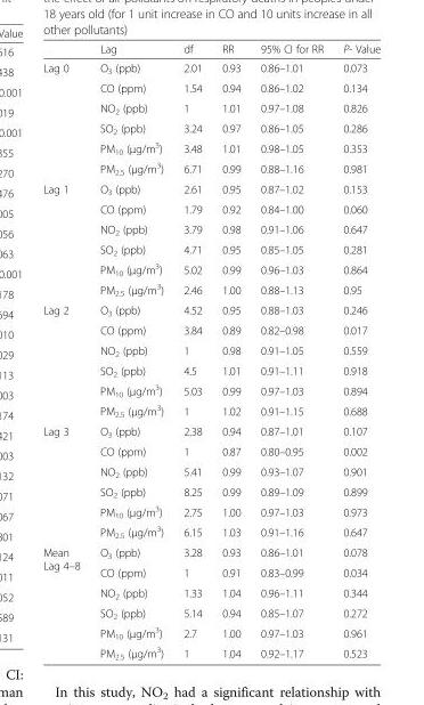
<table><thead><tr><td></td><td>Lag</td><td>df</td><td>RR</td><td>95% CI for RR</td><td>P- Value</td></tr></thead><tbody><tr><td rowspan="6">Lag 0</td><td>O<sub>3</sub> (ppb)</td><td>2.01</td><td>0.93</td><td>0.86–1.01</td><td>0.073</td></tr><tr><td>CO (ppm)</td><td>1.54</td><td>0.94</td><td>0.86–1.02</td><td>0.134</td></tr><tr><td>NO<sub>2</sub> (ppb)</td><td>1</td><td>1.01</td><td>0.97–1.08</td><td>0.826</td></tr><tr><td>SO<sub>2</sub> (ppb)</td><td>3.24</td><td>0.97</td><td>0.86–1.05</td><td>0.286</td></tr><tr><td>PM<sub>10</sub> (μg/m<sup>3</sup>)</td><td>3.48</td><td>1.01</td><td>0.98–1.05</td><td>0.353</td></tr><tr><td>PM<sub>2.5</sub> (μg/m<sup>3</sup>)</td><td>6.71</td><td>0.99</td><td>0.88–1.16</td><td>0.981</td></tr><tr><td rowspan="6">Lag 1</td><td>O<sub>3</sub> (ppb)</td><td>2.61</td><td>0.95</td><td>0.87–1.02</td><td>0.153</td></tr><tr><td>CO (ppm)</td><td>1.79</td><td>0.92</td><td>0.84–1.00</td><td>0.060</td></tr><tr><td>NO<sub>2</sub> (ppb)</td><td>3.79</td><td>0.98</td><td>0.91–1.06</td><td>0.647</td></tr><tr><td>SO<sub>2</sub> (ppb)</td><td>4.71</td><td>0.95</td><td>0.85–1.05</td><td>0.281</td></tr><tr><td>PM<sub>10</sub> (μg/m<sup>3</sup>)</td><td>5.02</td><td>0.99</td><td>0.96–1.03</td><td>0.864</td></tr><tr><td>PM<sub>2.5</sub> (μg/m<sup>3</sup>)</td><td>2.46</td><td>1.00</td><td>0.88–1.13</td><td>0.95</td></tr><tr><td rowspan="6">Lag 2</td><td>O<sub>3</sub> (ppb)</td><td>4.52</td><td>0.95</td><td>0.88–1.03</td><td>0.246</td></tr><tr><td>CO (ppm)</td><td>3.84</td><td>0.89</td><td>0.82–0.98</td><td>0.017</td></tr><tr><td>NO<sub>2</sub> (ppb)</td><td>1</td><td>0.98</td><td>0.91–1.05</td><td>0.559</td></tr><tr><td>SO<sub>2</sub> (ppb)</td><td>4.5</td><td>1.01</td><td>0.91–1.11</td><td>0.918</td></tr><tr><td>PM<sub>10</sub> (μg/m<sup>3</sup>)</td><td>5.03</td><td>0.99</td><td>0.97–1.03</td><td>0.894</td></tr><tr><td>PM<sub>2.5</sub> (μg/m<sup>3</sup>)</td><td>1</td><td>1.02</td><td>0.91–1.15</td><td>0.688</td></tr><tr><td rowspan="6">Lag 3</td><td>O<sub>3</sub> (ppb)</td><td>2.38</td><td>0.94</td><td>0.87–1.01</td><td>0.107</td></tr><tr><td>CO (ppm)</td><td>1</td><td>0.87</td><td>0.80–0.95</td><td>0.002</td></tr><tr><td>NO<sub>2</sub> (ppb)</td><td>5.41</td><td>0.99</td><td>0.93–1.07</td><td>0.901</td></tr><tr><td>SO<sub>2</sub> (ppb)</td><td>8.25</td><td>0.99</td><td>0.89–1.09</td><td>0.899</td></tr><tr><td>PM<sub>10</sub> (μg/m<sup>3</sup>)</td><td>2.75</td><td>1.00</td><td>0.97–1.03</td><td>0.973</td></tr><tr><td>PM<sub>2.5</sub> (μg/m<sup>3</sup>)</td><td>6.15</td><td>1.03</td><td>0.91–1.16</td><td>0.647</td></tr><tr><td rowspan="6">Mean Lag 4–8</td><td>O<sub>3</sub> (ppb)</td><td>3.28</td><td>0.93</td><td>0.86–1.01</td><td>0.078</td></tr><tr><td>CO (ppm)</td><td>1</td><td>0.91</td><td>0.83–0.99</td><td>0.034</td></tr><tr><td>NO<sub>2</sub> (ppb)</td><td>1.33</td><td>1.04</td><td>0.96–1.11</td><td>0.344</td></tr><tr><td>SO<sub>2</sub> (ppb)</td><td>5.14</td><td>0.94</td><td>0.85–1.07</td><td>0.272</td></tr><tr><td>PM<sub>10</sub> (μg/m<sup>3</sup>)</td><td>2.7</td><td>1.00</td><td>0.97–1.03</td><td>0.961</td></tr><tr><td>PM<sub>2.5</sub> (μg/m<sup>3</sup>)</td><td>1</td><td>1.04</td><td>0.92–1.17</td><td>0.523</td></tr></tbody></table>